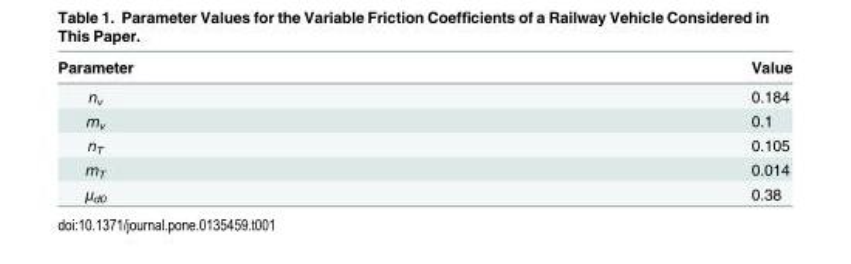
<table><thead><tr><td>Parameter</td><td>Value</td></tr></thead><tbody><tr><td>n<sub>v</sub></td><td>0.184</td></tr><tr><td>m<sub>v</sub></td><td>0.1</td></tr><tr><td>n<sub>T</sub></td><td>0.105</td></tr><tr><td>m<sub>T</sub></td><td>0.014</td></tr><tr><td>μ<sub>d0</sub></td><td>0.38</td></tr></tbody></table>